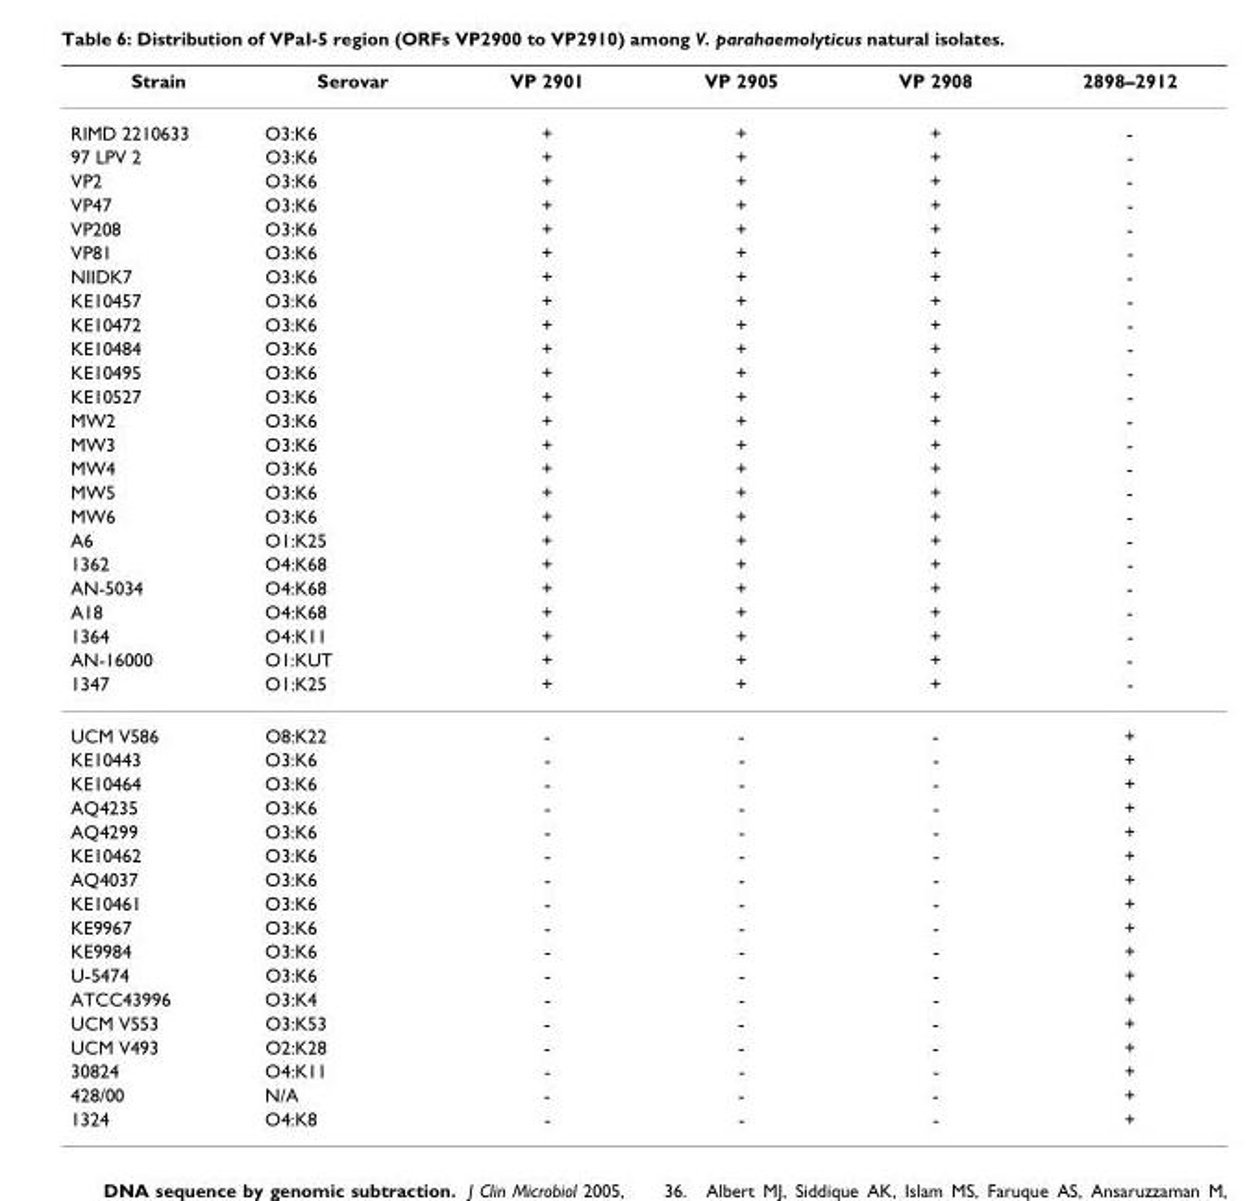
<table><thead><tr><td>Strain</td><td>Serovar</td><td>VP 2901</td><td>VP 2905</td><td>VP 2908</td><td>2898–2912</td></tr></thead><tbody><tr><td>RIMD 2210633</td><td>O3:K6</td><td>+</td><td>+</td><td>+</td><td>-</td></tr><tr><td>97 LPV 2</td><td>O3:K6</td><td>+</td><td>+</td><td>+</td><td>-</td></tr><tr><td>VP2</td><td>O3:K6</td><td>+</td><td>+</td><td>+</td><td>-</td></tr><tr><td>VP47</td><td>O3:K6</td><td>+</td><td>+</td><td>+</td><td>-</td></tr><tr><td>VP208</td><td>O3:K6</td><td>+</td><td>+</td><td>+</td><td>-</td></tr><tr><td>VP81</td><td>O3:K6</td><td>+</td><td>+</td><td>+</td><td>-</td></tr><tr><td>NIIDK7</td><td>O3:K6</td><td>+</td><td>+</td><td>+</td><td>-</td></tr><tr><td>KE10457</td><td>O3:K6</td><td>+</td><td>+</td><td>+</td><td>-</td></tr><tr><td>KE10472</td><td>O3:K6</td><td>+</td><td>+</td><td>+</td><td>-</td></tr><tr><td>KE10484</td><td>O3:K6</td><td>+</td><td>+</td><td>+</td><td>-</td></tr><tr><td>KE10495</td><td>O3:K6</td><td>+</td><td>+</td><td>+</td><td>-</td></tr><tr><td>KE10527</td><td>O3:K6</td><td>+</td><td>+</td><td>+</td><td>-</td></tr><tr><td>MW2</td><td>O3:K6</td><td>+</td><td>+</td><td>+</td><td>-</td></tr><tr><td>MW3</td><td>O3:K6</td><td>+</td><td>+</td><td>+</td><td>-</td></tr><tr><td>MW4</td><td>O3:K6</td><td>+</td><td>+</td><td>+</td><td>-</td></tr><tr><td>MW5</td><td>O3:K6</td><td>+</td><td>+</td><td>+</td><td>-</td></tr><tr><td>MW6</td><td>O3:K6</td><td>+</td><td>+</td><td>+</td><td>-</td></tr><tr><td>A6</td><td>O1:K25</td><td>+</td><td>+</td><td>+</td><td>-</td></tr><tr><td>1362</td><td>O4:K68</td><td>+</td><td>+</td><td>+</td><td>-</td></tr><tr><td>AN-5034</td><td>O4:K68</td><td>+</td><td>+</td><td>+</td><td>-</td></tr><tr><td>A18</td><td>O4:K68</td><td>+</td><td>+</td><td>+</td><td>-</td></tr><tr><td>1364</td><td>O4:K11</td><td>+</td><td>+</td><td>+</td><td>-</td></tr><tr><td>AN-16000</td><td>O1:KUT</td><td>+</td><td>+</td><td>+</td><td>-</td></tr><tr><td>1347</td><td>O1:K25</td><td>+</td><td>+</td><td>+</td><td>-</td></tr><tr><td>UCM V586</td><td>O8:K22</td><td>-</td><td>-</td><td>-</td><td>+</td></tr><tr><td>KE10443</td><td>O3:K6</td><td>-</td><td>-</td><td>-</td><td>+</td></tr><tr><td>KE10464</td><td>O3:K6</td><td>-</td><td>-</td><td>-</td><td>+</td></tr><tr><td>AQ4235</td><td>O3:K6</td><td>-</td><td>-</td><td>-</td><td>+</td></tr><tr><td>AQ4299</td><td>O3:K6</td><td>-</td><td>-</td><td>-</td><td>+</td></tr><tr><td>KE10462</td><td>O3:K6</td><td>-</td><td>-</td><td>-</td><td>+</td></tr><tr><td>AQ4037</td><td>O3:K6</td><td>-</td><td>-</td><td>-</td><td>+</td></tr><tr><td>KE10461</td><td>O3:K6</td><td>-</td><td>-</td><td>-</td><td>+</td></tr><tr><td>KE9967</td><td>O3:K6</td><td>-</td><td>-</td><td>-</td><td>+</td></tr><tr><td>KE9984</td><td>O3:K6</td><td>-</td><td>-</td><td>-</td><td>+</td></tr><tr><td>U-5474</td><td>O3:K6</td><td>-</td><td>-</td><td>-</td><td>+</td></tr><tr><td>ATCC43996</td><td>O3:K4</td><td>-</td><td>-</td><td>-</td><td>+</td></tr><tr><td>UCM V553</td><td>O3:K53</td><td>-</td><td>-</td><td>-</td><td>+</td></tr><tr><td>UCM V493</td><td>O2:K28</td><td>-</td><td>-</td><td>-</td><td>+</td></tr><tr><td>30824</td><td>O4:K11</td><td>-</td><td>-</td><td>-</td><td>+</td></tr><tr><td>428/00</td><td>N/A</td><td>-</td><td>-</td><td>-</td><td>+</td></tr><tr><td>1324</td><td>O4:K8</td><td>-</td><td>-</td><td>-</td><td>+</td></tr></tbody></table>